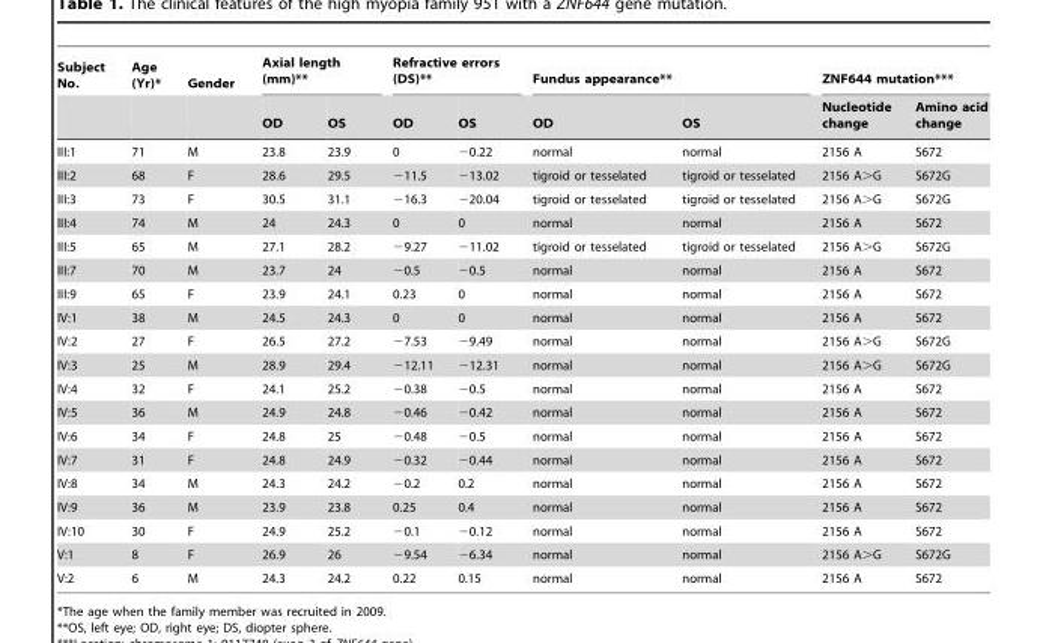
<table><thead><tr><td rowspan="2">Subject No.</td><td rowspan="2">Age (Yr)*</td><td rowspan="2">Gender</td><td colspan="2">Axial length (mm)**</td><td colspan="2">Refractive errors (DS)**</td><td colspan="2">Fundus appearance**</td><td colspan="2">ZNF644 mutation***</td></tr><tr><td>OD</td><td>OS</td><td>OD</td><td>OS</td><td>OD</td><td>OS</td><td>Nucleotide change</td><td>Amino acid change</td></tr></thead><tbody><tr><td>III:1</td><td>71</td><td>M</td><td>23.8</td><td>23.9</td><td>0</td><td>−0.22</td><td>normal</td><td>normal</td><td>2156 A</td><td>S672</td></tr><tr><td>III:2</td><td>68</td><td>F</td><td>28.6</td><td>29.5</td><td>−11.5</td><td>−13.02</td><td>tigroid or tesselated</td><td>tigroid or tesselated</td><td>2156 A&gt;G</td><td>S672G</td></tr><tr><td>III:3</td><td>73</td><td>F</td><td>30.5</td><td>31.1</td><td>−16.3</td><td>−20.04</td><td>tigroid or tesselated</td><td>tigroid or tesselated</td><td>2156 A&gt;G</td><td>S672G</td></tr><tr><td>III:4</td><td>74</td><td>M</td><td>24</td><td>24.3</td><td>0</td><td>0</td><td>normal</td><td>normal</td><td>2156 A</td><td>S672</td></tr><tr><td>III:5</td><td>65</td><td>M</td><td>27.1</td><td>28.2</td><td>−9.27</td><td>−11.02</td><td>tigroid or tesselated</td><td>tigroid or tesselated</td><td>2156 A&gt;G</td><td>S672G</td></tr><tr><td>III:7</td><td>70</td><td>M</td><td>23.7</td><td>24</td><td>−0.5</td><td>−0.5</td><td>normal</td><td>normal</td><td>2156 A</td><td>S672</td></tr><tr><td>III:9</td><td>65</td><td>F</td><td>23.9</td><td>24.1</td><td>0.23</td><td>0</td><td>normal</td><td>normal</td><td>2156 A</td><td>S672</td></tr><tr><td>IV:1</td><td>38</td><td>M</td><td>24.5</td><td>24.3</td><td>0</td><td>0</td><td>normal</td><td>normal</td><td>2156 A</td><td>S672</td></tr><tr><td>IV:2</td><td>27</td><td>F</td><td>26.5</td><td>27.2</td><td>−7.53</td><td>−9.49</td><td>normal</td><td>normal</td><td>2156 A&gt;G</td><td>S672G</td></tr><tr><td>IV:3</td><td>25</td><td>M</td><td>28.9</td><td>29.4</td><td>−12.11</td><td>−12.31</td><td>normal</td><td>normal</td><td>2156 A&gt;G</td><td>S672G</td></tr><tr><td>IV:4</td><td>32</td><td>F</td><td>24.1</td><td>25.2</td><td>−0.38</td><td>−0.5</td><td>normal</td><td>normal</td><td>2156 A</td><td>S672</td></tr><tr><td>IV:5</td><td>36</td><td>M</td><td>24.9</td><td>24.8</td><td>−0.46</td><td>−0.42</td><td>normal</td><td>normal</td><td>2156 A</td><td>S672</td></tr><tr><td>IV:6</td><td>34</td><td>F</td><td>24.8</td><td>25</td><td>−0.48</td><td>−0.5</td><td>normal</td><td>normal</td><td>2156 A</td><td>S672</td></tr><tr><td>IV:7</td><td>31</td><td>F</td><td>24.8</td><td>24.9</td><td>−0.32</td><td>−0.44</td><td>normal</td><td>normal</td><td>2156 A</td><td>S672</td></tr><tr><td>IV:8</td><td>34</td><td>M</td><td>24.3</td><td>24.2</td><td>−0.2</td><td>0.2</td><td>normal</td><td>normal</td><td>2156 A</td><td>S672</td></tr><tr><td>IV:9</td><td>36</td><td>M</td><td>23.9</td><td>23.8</td><td>0.25</td><td>0.4</td><td>normal</td><td>normal</td><td>2156 A</td><td>S672</td></tr><tr><td>IV:10</td><td>30</td><td>F</td><td>24.9</td><td>25.2</td><td>−0.1</td><td>−0.12</td><td>normal</td><td>normal</td><td>2156 A</td><td>S672</td></tr><tr><td>V:1</td><td>8</td><td>F</td><td>26.9</td><td>26</td><td>−9.54</td><td>−6.34</td><td>normal</td><td>normal</td><td>2156 A&gt;G</td><td>S672G</td></tr><tr><td>V:2</td><td>6</td><td>M</td><td>24.3</td><td>24.2</td><td>0.22</td><td>0.15</td><td>normal</td><td>normal</td><td>2156 A</td><td>S672</td></tr></tbody></table>